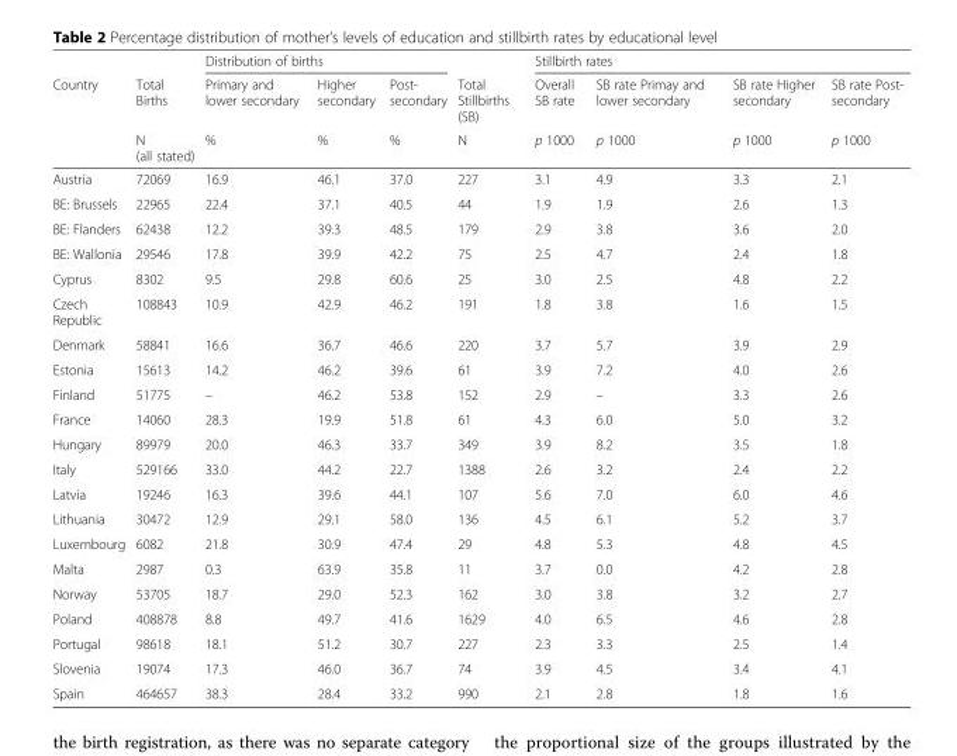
<table><thead><tr><td rowspan="3">Country</td><td rowspan="3">Total Births N (all stated)</td><td colspan="3">Distribution of births</td><td rowspan="3">Total Stillbirths (SB) N</td><td colspan="4">Stillbirth rates</td></tr><tr><td rowspan="2">Primary and lower secondary %</td><td rowspan="2">Higher secondary %</td><td rowspan="2">Post- secondary %</td><td rowspan="2">Overall SB rate p 1000</td><td rowspan="2">SB rate Primay and lower secondary p 1000</td><td rowspan="2">SB rate Higher secondary p 1000</td><td rowspan="2">SB rate Post- secondary p 1000</td></tr><tr></tr></thead><tbody><tr><td>Austria</td><td>72069</td><td>16.9</td><td>46.1</td><td>37.0</td><td>227</td><td>3.1</td><td>4.9</td><td>3.3</td><td>2.1</td></tr><tr><td>BE: Brussels</td><td>22965</td><td>22.4</td><td>37.1</td><td>40.5</td><td>44</td><td>1.9</td><td>1.9</td><td>2.6</td><td>1.3</td></tr><tr><td>BE: Flanders</td><td>62438</td><td>12.2</td><td>39.3</td><td>48.5</td><td>179</td><td>2.9</td><td>3.8</td><td>3.6</td><td>2.0</td></tr><tr><td>BE: Wallonia</td><td>29546</td><td>17.8</td><td>39.9</td><td>42.2</td><td>75</td><td>2.5</td><td>4.7</td><td>2.4</td><td>1.8</td></tr><tr><td>Cyprus</td><td>8302</td><td>9.5</td><td>29.8</td><td>60.6</td><td>25</td><td>3.0</td><td>2.5</td><td>4.8</td><td>2.2</td></tr><tr><td>Czech Republic</td><td>108843</td><td>10.9</td><td>42.9</td><td>46.2</td><td>191</td><td>1.8</td><td>3.8</td><td>1.6</td><td>1.5</td></tr><tr><td>Denmark</td><td>58841</td><td>16.6</td><td>36.7</td><td>46.6</td><td>220</td><td>3.7</td><td>5.7</td><td>3.9</td><td>2.9</td></tr><tr><td>Estonia</td><td>15613</td><td>14.2</td><td>46.2</td><td>39.6</td><td>61</td><td>3.9</td><td>7.2</td><td>4.0</td><td>2.6</td></tr><tr><td>Finland</td><td>51775</td><td>–</td><td>46.2</td><td>53.8</td><td>152</td><td>2.9</td><td>–</td><td>3.3</td><td>2.6</td></tr><tr><td>France</td><td>14060</td><td>28.3</td><td>19.9</td><td>51.8</td><td>61</td><td>4.3</td><td>6.0</td><td>5.0</td><td>3.2</td></tr><tr><td>Hungary</td><td>89979</td><td>20.0</td><td>46.3</td><td>33.7</td><td>349</td><td>3.9</td><td>8.2</td><td>3.5</td><td>1.8</td></tr><tr><td>Italy</td><td>529166</td><td>33.0</td><td>44.2</td><td>22.7</td><td>1388</td><td>2.6</td><td>3.2</td><td>2.4</td><td>2.2</td></tr><tr><td>Latvia</td><td>19246</td><td>16.3</td><td>39.6</td><td>44.1</td><td>107</td><td>5.6</td><td>7.0</td><td>6.0</td><td>4.6</td></tr><tr><td>Lithuania</td><td>30472</td><td>12.9</td><td>29.1</td><td>58.0</td><td>136</td><td>4.5</td><td>6.1</td><td>5.2</td><td>3.7</td></tr><tr><td>Luxembourg</td><td>6082</td><td>21.8</td><td>30.9</td><td>47.4</td><td>29</td><td>4.8</td><td>5.3</td><td>4.8</td><td>4.5</td></tr><tr><td>Malta</td><td>2987</td><td>0.3</td><td>63.9</td><td>35.8</td><td>11</td><td>3.7</td><td>0.0</td><td>4.2</td><td>2.8</td></tr><tr><td>Norway</td><td>53705</td><td>18.7</td><td>29.0</td><td>52.3</td><td>162</td><td>3.0</td><td>3.8</td><td>3.2</td><td>2.7</td></tr><tr><td>Poland</td><td>408878</td><td>8.8</td><td>49.7</td><td>41.6</td><td>1629</td><td>4.0</td><td>6.5</td><td>4.6</td><td>2.8</td></tr><tr><td>Portugal</td><td>98618</td><td>18.1</td><td>51.2</td><td>30.7</td><td>227</td><td>2.3</td><td>3.3</td><td>2.5</td><td>1.4</td></tr><tr><td>Slovenia</td><td>19074</td><td>17.3</td><td>46.0</td><td>36.7</td><td>74</td><td>3.9</td><td>4.5</td><td>3.4</td><td>4.1</td></tr><tr><td>Spain</td><td>464657</td><td>38.3</td><td>28.4</td><td>33.2</td><td>990</td><td>2.1</td><td>2.8</td><td>1.8</td><td>1.6</td></tr></tbody></table>